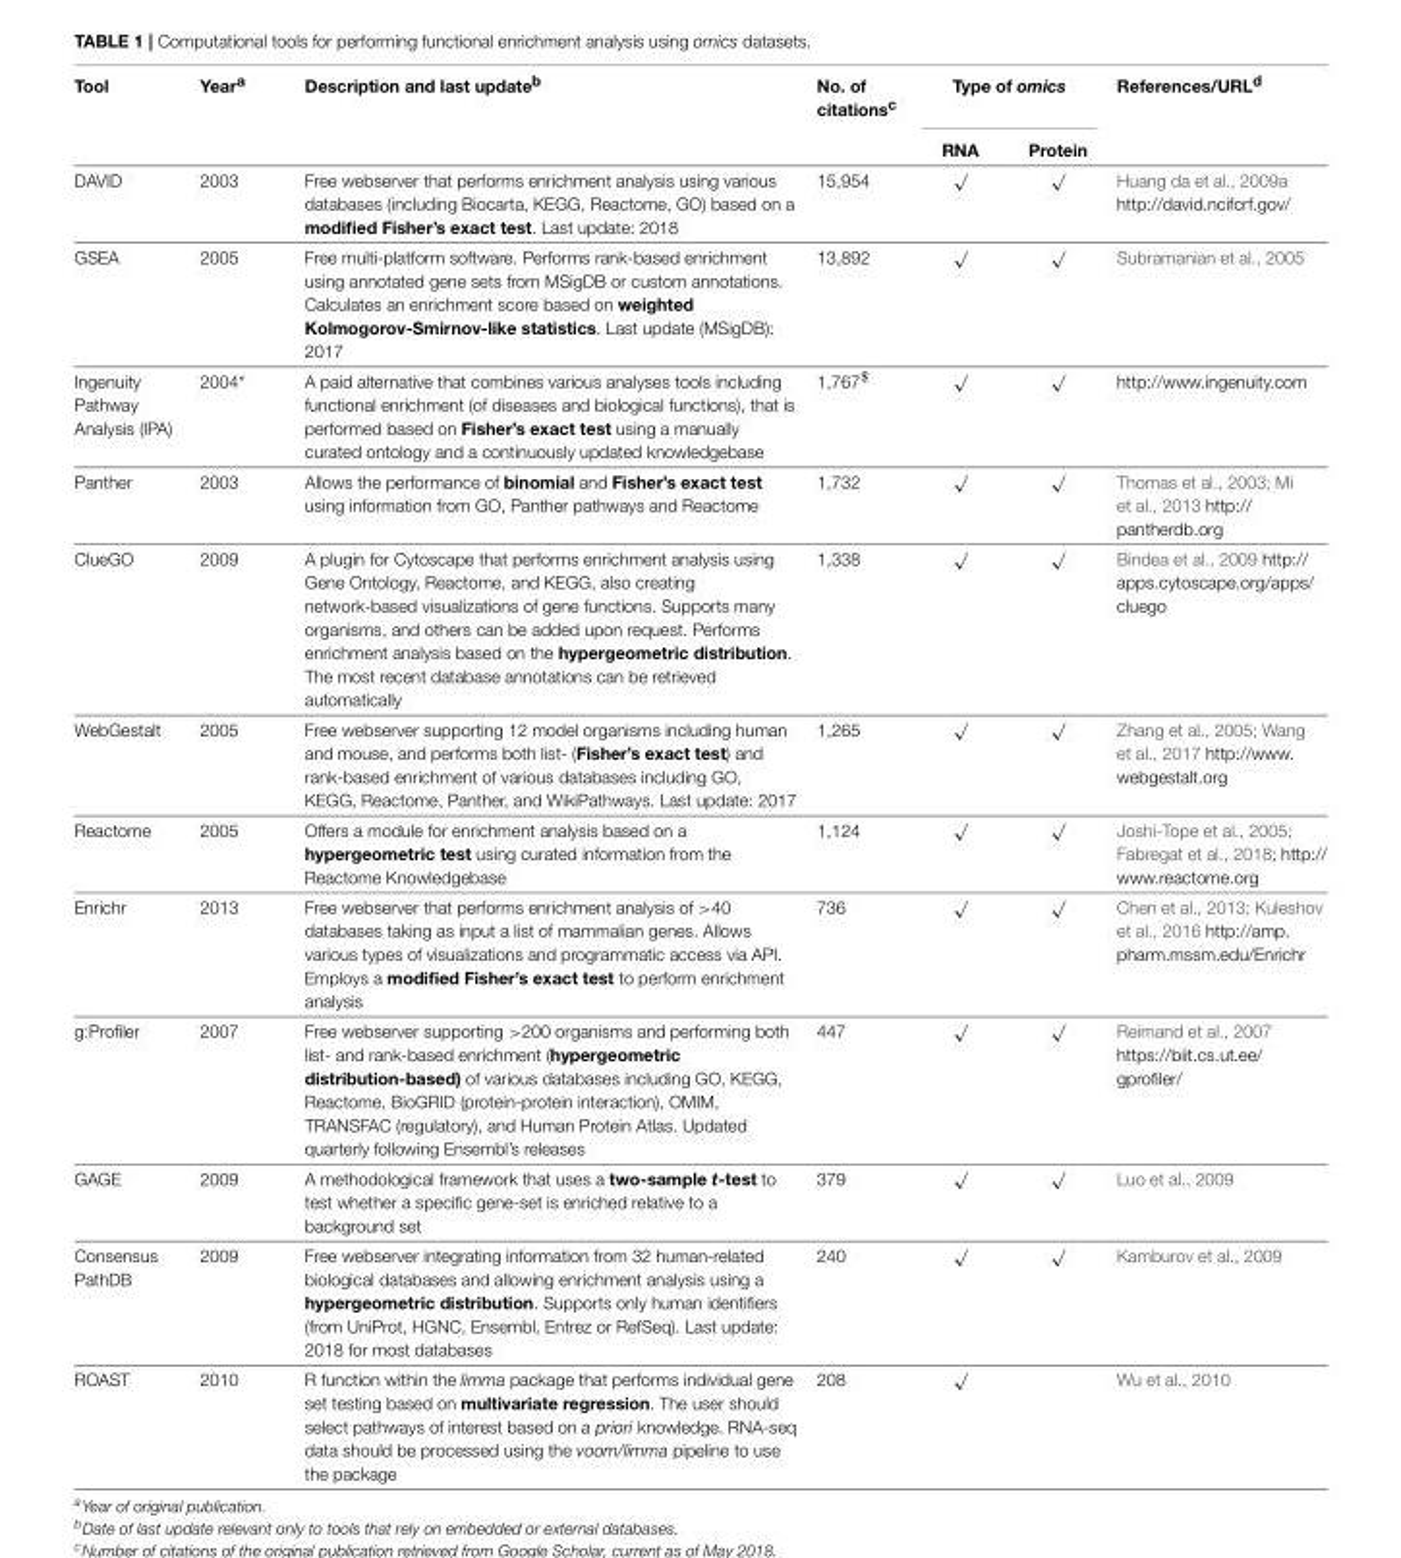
<table><thead><tr><td rowspan="2">Tool</td><td rowspan="2">Year<sup>a</sup></td><td rowspan="2">Description and last update<sup>b</sup></td><td rowspan="2">No. of citations<sup>c</sup></td><td colspan="2">Type of omics</td><td rowspan="2">References/URL<sup>d</sup></td></tr><tr><td>RNA</td><td>Protein</td></tr></thead><tbody><tr><td>DAVID</td><td>2003</td><td>Free webserver that performs enrichment analysis using various databases (including Biocarta, KEGG, Reactome, GO) based on a modified Fisher’s exact test. Last update: 2018</td><td>15,954</td><td>√</td><td>√</td><td>Huang da et al., 2009a http://david.ncifcrf.gov/</td></tr><tr><td>GSEA</td><td>2005</td><td>Free multi-platform software. Performs rank-based enrichment using annotated gene sets from MSigDB or custom annotations. Calculates an enrichment score based on weighted Kolmogorov-Smirnov-like statistics. Last update (MSigDB): 2017</td><td>13,892</td><td>√</td><td>√</td><td>Subramanian et al., 2005</td></tr><tr><td>Ingenuity Pathway Analysis (IPA)</td><td>2004*</td><td>A paid alternative that combines various analyses tools including functional enrichment (of diseases and biological functions), that is performed based on Fisher’s exact test using a manually curated ontology and a continuously updated knowledgebase</td><td>1,767<sup>$</sup></td><td>√</td><td>√</td><td>http://www.ingenuity.com</td></tr><tr><td>Panther</td><td>2003</td><td>Allows the performance of binomial and Fisher’s exact test using information from GO, Panther pathways and Reactome</td><td>1,732</td><td>√</td><td>√</td><td>Thomas et al., 2003; Mi et al., 2013 http:// pantherdb.org</td></tr><tr><td>ClueGO</td><td>2009</td><td>A plugin for Cytoscape that performs enrichment analysis using Gene Ontology, Reactome, and KEGG, also creating network-based visualizations of gene functions. Supports many organisms, and others can be added upon request. Performs enrichment analysis based on the hypergeometric distribution. The most recent database annotations can be retrieved automatically</td><td>1,338</td><td>√</td><td>√</td><td>Bindea et al., 2009 http:// apps.cytoscape.org/apps/ cluego</td></tr><tr><td>WebGestalt</td><td>2005</td><td>Free webserver supporting 12 model organisms including human and mouse, and performs both list- (Fisher’s exact test) and rank-based enrichment of various databases including GO, KEGG, Reactome, Panther, and WikiPathways. Last update: 2017</td><td>1,265</td><td>√</td><td>√</td><td>Zhang et al., 2005; Wang et al., 2017 http://www. webgestalt.org</td></tr><tr><td>Reactome</td><td>2005</td><td>Offers a module for enrichment analysis based on a hypergeometric test using curated information from the Reactome Knowledgebase</td><td>1,124</td><td>√</td><td>√</td><td>Joshi-Tope et al., 2005; Fabregat et al., 2018; http:// www.reactome.org</td></tr><tr><td>Enrichr</td><td>2013</td><td>Free webserver that performs enrichment analysis of &gt;40 databases taking as input a list of mammalian genes. Allows various types of visualizations and programmatic access via API. Employs a modified Fisher’s exact test to perform enrichment analysis</td><td>736</td><td>√</td><td>√</td><td>Chen et al., 2013; Kuleshov et al., 2016 http://amp. pharm.mssm.edu/Enrichr</td></tr><tr><td>g:Profiler</td><td>2007</td><td>Free webserver supporting &gt;200 organisms and performing both list- and rank-based enrichment (hypergeometric distribution-based) of various databases including GO, KEGG, Reactome, BioGRID (protein-protein interaction), OMIM, TRANSFAC (regulatory), and Human Protein Atlas. Updated quarterly following Ensembl’s releases</td><td>447</td><td>√</td><td>√</td><td>Reimand et al., 2007 https://biit.cs.ut.ee/ gprofiler/</td></tr><tr><td>GAGE</td><td>2009</td><td>A methodological framework that uses a two-sample t-test to test whether a specific gene-set is enriched relative to a background set</td><td>379</td><td>√</td><td>√</td><td>Luo et al., 2009</td></tr><tr><td>Consensus PathDB</td><td>2009</td><td>Free webserver integrating information from 32 human-related biological databases and allowing enrichment analysis using a hypergeometric distribution. Supports only human identifiers (from UniProt, HGNC, Ensembl, Entrez or RefSeq). Last update: 2018 for most databases</td><td>240</td><td>√</td><td>√</td><td>Kamburov et al., 2009</td></tr><tr><td>ROAST</td><td>2010</td><td>R function within the limma package that performs individual gene set testing based on multivariate regression. The user should select pathways of interest based on a priori knowledge. RNA-seq data should be processed using the voom/limma pipeline to use the package</td><td>208</td><td>√</td><td></td><td>Wu et al., 2010</td></tr></tbody></table>